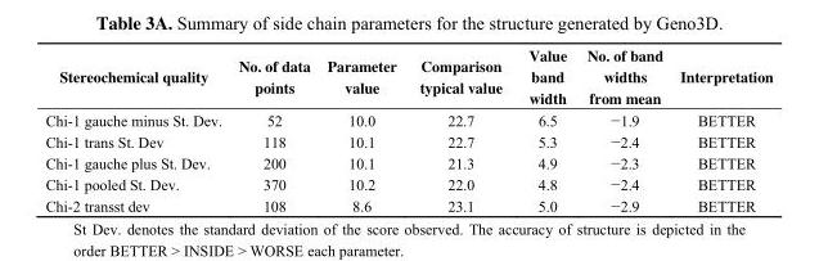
<table><thead><tr><td>Stereochemical quality</td><td>No. of data points</td><td>Parameter value</td><td>Comparison typical value</td><td>Value band width</td><td>No. of band widths from mean</td><td>Interpretation</td></tr></thead><tbody><tr><td>Chi-1 gauche minus St. Dev.</td><td>52</td><td>10.0</td><td>22.7</td><td>6.5</td><td>−1.9</td><td>BETTER</td></tr><tr><td>Chi-1 trans St. Dev</td><td>118</td><td>10.1</td><td>22.7</td><td>5.3</td><td>−2.4</td><td>BETTER</td></tr><tr><td>Chi-1 gauche plus St. Dev.</td><td>200</td><td>10.1</td><td>21.3</td><td>4.9</td><td>−2.3</td><td>BETTER</td></tr><tr><td>Chi-1 pooled St. Dev.</td><td>370</td><td>10.2</td><td>22.0</td><td>4.8</td><td>−2.4</td><td>BETTER</td></tr><tr><td>Chi-2 transst dev</td><td>108</td><td>8.6</td><td>23.1</td><td>5.0</td><td>−2.9</td><td>BETTER</td></tr></tbody></table>